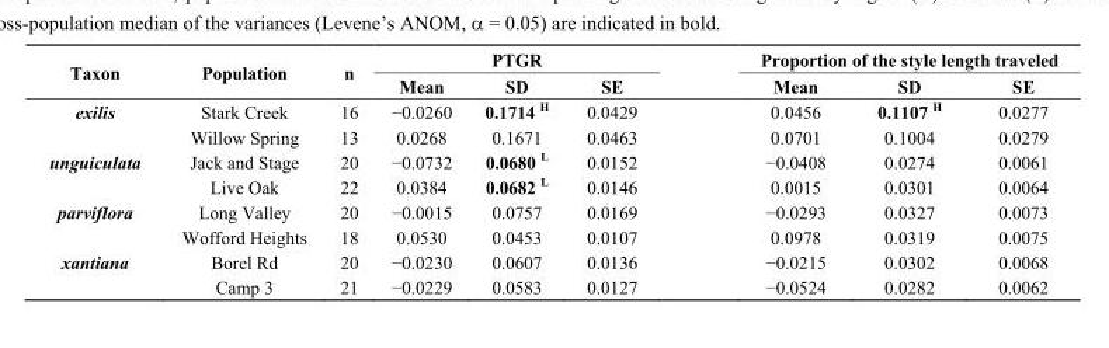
<table><thead><tr><td rowspan="2">Taxon</td><td rowspan="2">Population</td><td rowspan="2">n</td><td colspan="3">PTGR</td><td colspan="3">Proportion of the style length traveled</td></tr><tr><td>Mean</td><td>SD</td><td>SE</td><td>Mean</td><td>SD</td><td>SE</td></tr></thead><tbody><tr><td rowspan="2">exilis</td><td>Stark Creek</td><td>16</td><td>−0.0260</td><td>0.1714 <sup>H</sup></td><td>0.0429</td><td>0.0456</td><td>0.1107 <sup>H</sup></td><td>0.0277</td></tr><tr><td>Willow Spring</td><td>13</td><td>0.0268</td><td>0.1671</td><td>0.0463</td><td>0.0701</td><td>0.1004</td><td>0.0279</td></tr><tr><td rowspan="2">unguiculata</td><td>Jack and Stage</td><td>20</td><td>−0.0732</td><td>0.0680 <sup>L</sup></td><td>0.0152</td><td>−0.0408</td><td>0.0274</td><td>0.0061</td></tr><tr><td>Live Oak</td><td>22</td><td>0.0384</td><td>0.0682 <sup>L</sup></td><td>0.0146</td><td>0.0015</td><td>0.0301</td><td>0.0064</td></tr><tr><td rowspan="2">parviflora</td><td>Long Valley</td><td>20</td><td>−0.0015</td><td>0.0757</td><td>0.0169</td><td>−0.0293</td><td>0.0327</td><td>0.0073</td></tr><tr><td>Wofford Heights</td><td>18</td><td>0.0530</td><td>0.0453</td><td>0.0107</td><td>0.0978</td><td>0.0319</td><td>0.0075</td></tr><tr><td rowspan="2">xantiana</td><td>Borel Rd</td><td>20</td><td>−0.0230</td><td>0.0607</td><td>0.0136</td><td>−0.0215</td><td>0.0302</td><td>0.0068</td></tr><tr><td>Camp 3</td><td>21</td><td>−0.0229</td><td>0.0583</td><td>0.0127</td><td>−0.0524</td><td>0.0282</td><td>0.0062</td></tr></tbody></table>